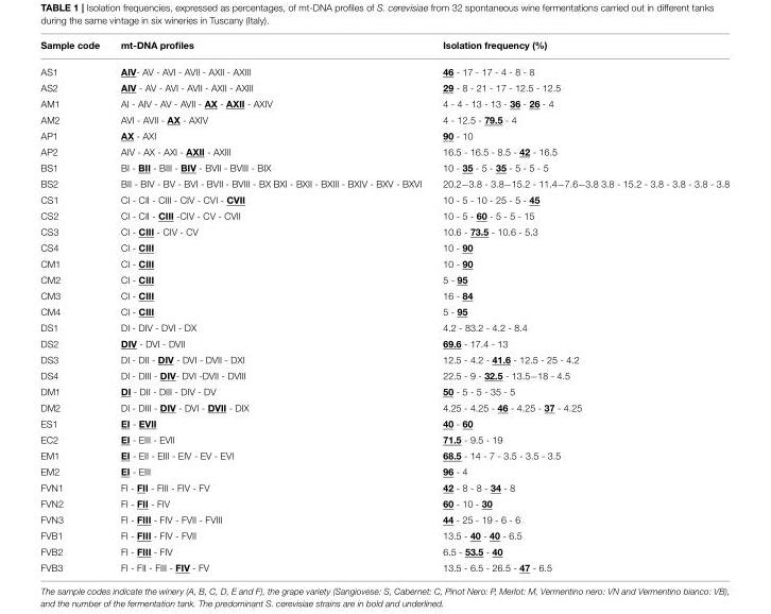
<table><thead><tr><td>Sample code</td><td>mt-DNA profiles</td><td>Isolation frequency (%)</td></tr></thead><tbody><tr><td>AS1</td><td>AIV- AV - AVI - AVII - AXII - AXIII</td><td>46 - 17 - 17 - 4 - 8 - 8</td></tr><tr><td>AS2</td><td>AIV - AV - AVI - AVII - AXII - AXIII</td><td>29 - 8 - 21 - 17 - 12.5 - 12.5</td></tr><tr><td>AM1</td><td>AI - AIV - AV - AVII - AX - AXII - AXIV</td><td>4 - 4 - 13 - 13 - 36 - 26 - 4</td></tr><tr><td>AM2</td><td>AVI - AVII - AX - AXIV</td><td>4 - 12.5 - 79.5 - 4</td></tr><tr><td>AP1</td><td>AX - AXI</td><td>90 - 10</td></tr><tr><td>AP2</td><td>AIV - AX - AXI - AXII - AXIII</td><td>16.5 - 16.5 - 8.5 - 42 - 16.5</td></tr><tr><td>BS1</td><td>BI - BII - BIII - BIV - BVII - BVIII - BIX</td><td>10 - 35 - 5 - 35 - 5 - 5 - 5</td></tr><tr><td>BS2</td><td>BII - BIV - BV - BVI - BVII - BVIII - BX BXI - BXII - BXIII - BXIV - BXV - BXVI</td><td>20.2−3.8 - 3.8−15.2 - 11.4−7.6−3.8 3.8 - 15.2 - 3.8 - 3.8 - 3.8 - 3.8</td></tr><tr><td>CS1</td><td>CI - CII - CIII - CIV - CVI - CVII</td><td>10 - 5 - 10 - 25 - 5 - 45</td></tr><tr><td>CS2</td><td>CI - CII - CIII -CIV - CV - CVII</td><td>10 - 5 - 60 - 5 - 5 - 15</td></tr><tr><td>CS3</td><td>CI - CIII - CIV - CV</td><td>10.6 - 73.5 - 10.6 - 5.3</td></tr><tr><td>CS4</td><td>CI - CIII</td><td>10 - 90</td></tr><tr><td>CM1</td><td>CI - CIII</td><td>10 - 90</td></tr><tr><td>CM2</td><td>CI - CIII</td><td>5 - 95</td></tr><tr><td>CM3</td><td>CI - CIII</td><td>16 - 84</td></tr><tr><td>CM4</td><td>CI - CIII</td><td>5 - 95</td></tr><tr><td>DS1</td><td>DI - DIV - DVI - DX</td><td>4.2 - 83.2 - 4.2 - 8.4</td></tr><tr><td>DS2</td><td>DIV - DVI - DVII</td><td>69.6 - 17.4 - 13</td></tr><tr><td>DS3</td><td>DI - DII - DIV - DVI - DVII - DXI</td><td>12.5 - 4.2 - 41.6 - 12.5 - 25 - 4.2</td></tr><tr><td>DS4</td><td>DI - DIII - DIV- DVI -DVII - DVIII</td><td>22.5 - 9 - 32.5 - 13.5−18 - 4.5</td></tr><tr><td>DM1</td><td>DI - DII - DIII - DIV - DV</td><td>50 - 5 - 5 - 35 - 5</td></tr><tr><td>DM2</td><td>DI - DIII - DIV - DVI - DVII - DIX</td><td>4.25 - 4.25 - 46 - 4.25 - 37 - 4.25</td></tr><tr><td>ES1</td><td>EI - EVII</td><td>40 - 60</td></tr><tr><td>EC2</td><td>EI - EIII - EVII</td><td>71.5 - 9.5 - 19</td></tr><tr><td>EM1</td><td>EI - EII - EIII - EIV - EV - EVI</td><td>68.5 - 14 - 7 - 3.5 - 3.5 - 3.5</td></tr><tr><td>EM2</td><td>EI - EIII</td><td>96 - 4</td></tr><tr><td>FVN1</td><td>FI - FII - FIII - FIV - FV</td><td>42 - 8 - 8 - 34 - 8</td></tr><tr><td>FVN2</td><td>FI - FII - FIV</td><td>60 - 10 - 30</td></tr><tr><td>FVN3</td><td>FI - FIII - FIV - FVII - FVIII</td><td>44 - 25 - 19 - 6 - 6</td></tr><tr><td>FVB1</td><td>FI - FIII - FIV - FVII</td><td>13.5 - 40 - 40 - 6.5</td></tr><tr><td>FVB2</td><td>FI - FIII - FIV</td><td>6.5 - 53.5 - 40</td></tr><tr><td>FVB3</td><td>FI - FII - FIII - FIV - FV</td><td>13.5 - 6.5 - 26.5 - 47 - 6.5</td></tr></tbody></table>